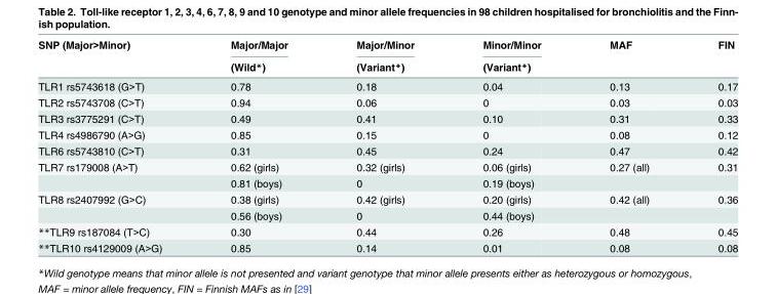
<table><thead><tr><td rowspan="2">SNP (Major&gt;Minor)</td><td rowspan="2">Major/Major (Wild*)</td><td rowspan="2">Major/Minor (Variant*)</td><td rowspan="2">Minor/Minor (Variant*)</td><td rowspan="2">MAF</td><td rowspan="2">FIN</td></tr><tr></tr></thead><tbody><tr><td>TLR1 rs5743618 (G&gt;T)</td><td>0.78</td><td>0.18</td><td>0.04</td><td>0.13</td><td>0.17</td></tr><tr><td>TLR2 rs5743708 (C&gt;T)</td><td>0.94</td><td>0.06</td><td>0</td><td>0.03</td><td>0.03</td></tr><tr><td>TLR3 rs3775291 (C&gt;T)</td><td>0.49</td><td>0.41</td><td>0.10</td><td>0.31</td><td>0.33</td></tr><tr><td>TLR4 rs4986790 (A&gt;G)</td><td>0.85</td><td>0.15</td><td>0</td><td>0.08</td><td>0.12</td></tr><tr><td>TLR6 rs5743810 (C&gt;T)</td><td>0.31</td><td>0.45</td><td>0.24</td><td>0.47</td><td>0.42</td></tr><tr><td rowspan="2">TLR7 rs179008 (A&gt;T)</td><td>0.62 (girls)</td><td>0.32 (girls)</td><td>0.06 (girls)</td><td>0.27 (all)</td><td>0.31</td></tr><tr><td>0.81 (boys)</td><td>0</td><td>0.19 (boys)</td><td></td><td></td></tr><tr><td rowspan="2">TLR8 rs2407992 (G&gt;C)</td><td>0.38 (girls)</td><td>0.42 (girls)</td><td>0.20 (girls)</td><td>0.42 (all)</td><td>0.36</td></tr><tr><td>0.56 (boys)</td><td>0</td><td>0.44 (boys)</td><td></td><td></td></tr><tr><td>**TLR9 rs187084 (T&gt;C)</td><td>0.30</td><td>0.44</td><td>0.26</td><td>0.48</td><td>0.45</td></tr><tr><td>**TLR10 rs4129009 (A&gt;G)</td><td>0.85</td><td>0.14</td><td>0.01</td><td>0.08</td><td>0.08</td></tr></tbody></table>